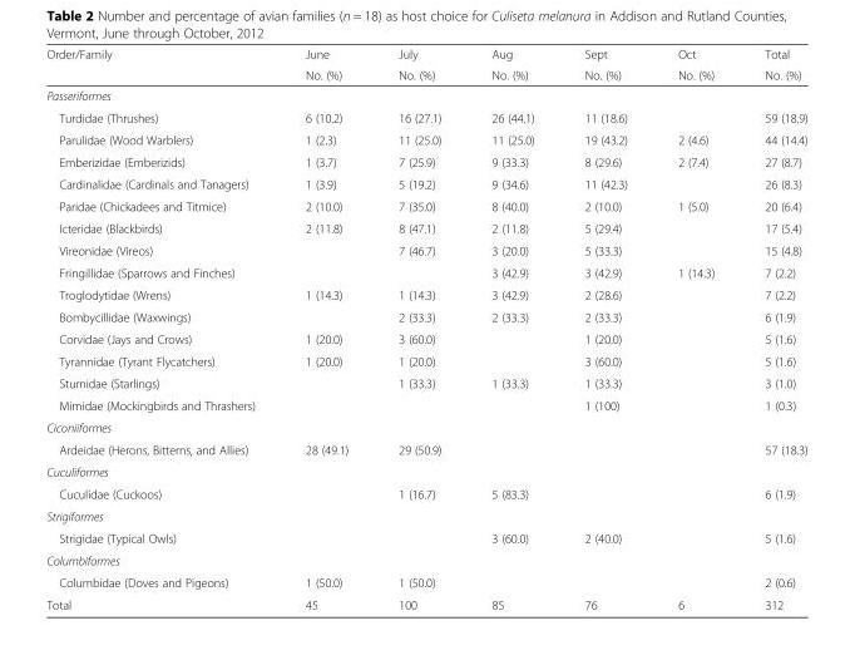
<table><thead><tr><td rowspan="2">Order/Family</td><td rowspan="2">June No. (%)</td><td rowspan="2">July No. (%)</td><td rowspan="2">Aug No. (%)</td><td rowspan="2">Sept No. (%)</td><td rowspan="2">Oct No. (%)</td><td rowspan="2">Total No. (%)</td></tr><tr></tr></thead><tbody><tr><td colspan="7">Passeriformes</td></tr><tr><td>Turdidae (Thrushes)</td><td>6 (10.2)</td><td>16 (27.1)</td><td>26 (44.1)</td><td>11 (18.6)</td><td></td><td>59 (18.9)</td></tr><tr><td>Parulidae (Wood Warblers)</td><td>1 (2.3)</td><td>11 (25.0)</td><td>11 (25.0)</td><td>19 (43.2)</td><td>2 (4.6)</td><td>44 (14.4)</td></tr><tr><td>Emberizidae (Emberizids)</td><td>1 (3.7)</td><td>7 (25.9)</td><td>9 (33.3)</td><td>8 (29.6)</td><td>2 (7.4)</td><td>27 (8.7)</td></tr><tr><td>Cardinalidae (Cardinals and Tanagers)</td><td>1 (3.9)</td><td>5 (19.2)</td><td>9 (34.6)</td><td>11 (42.3)</td><td></td><td>26 (8.3)</td></tr><tr><td>Paridae (Chickadees and Titmice)</td><td>2 (10.0)</td><td>7 (35.0)</td><td>8 (40.0)</td><td>2 (10.0)</td><td>1 (5.0)</td><td>20 (6.4)</td></tr><tr><td>Icteridae (Blackbirds)</td><td>2 (11.8)</td><td>8 (47.1)</td><td>2 (11.8)</td><td>5 (29.4)</td><td></td><td>17 (5.4)</td></tr><tr><td>Vireonidae (Vireos)</td><td></td><td>7 (46.7)</td><td>3 (20.0)</td><td>5 (33.3)</td><td></td><td>15 (4.8)</td></tr><tr><td>Fringillidae (Sparrows and Finches)</td><td></td><td></td><td>3 (42.9)</td><td>3 (42.9)</td><td>1 (14.3)</td><td>7 (2.2)</td></tr><tr><td>Troglodytidae (Wrens)</td><td>1 (14.3)</td><td>1 (14.3)</td><td>3 (42.9)</td><td>2 (28.6)</td><td></td><td>7 (2.2)</td></tr><tr><td>Bombycillidae (Waxwings)</td><td></td><td>2 (33.3)</td><td>2 (33.3)</td><td>2 (33.3)</td><td></td><td>6 (1.9)</td></tr><tr><td>Corvidae (Jays and Crows)</td><td>1 (20.0)</td><td>3 (60.0)</td><td></td><td>1 (20.0)</td><td></td><td>5 (1.6)</td></tr><tr><td>Tyrannidae (Tyrant Flycatchers)</td><td>1 (20.0)</td><td>1 (20.0)</td><td></td><td>3 (60.0)</td><td></td><td>5 (1.6)</td></tr><tr><td>Sturnidae (Starlings)</td><td></td><td>1 (33.3)</td><td>1 (33.3)</td><td>1 (33.3)</td><td></td><td>3 (1.0)</td></tr><tr><td>Mimidae (Mockingbirds and Thrashers)</td><td></td><td></td><td></td><td>1 (100)</td><td></td><td>1 (0.3)</td></tr><tr><td colspan="7">Ciconiiformes</td></tr><tr><td>Ardeidae (Herons, Bitterns, and Allies)</td><td>28 (49.1)</td><td>29 (50.9)</td><td></td><td></td><td></td><td>57 (18.3)</td></tr><tr><td colspan="7">Cuculiformes</td></tr><tr><td>Cuculidae (Cuckoos)</td><td></td><td>1 (16.7)</td><td>5 (83.3)</td><td></td><td></td><td>6 (1.9)</td></tr><tr><td colspan="7">Strigiformes</td></tr><tr><td>Strigidae (Typical Owls)</td><td></td><td></td><td>3 (60.0)</td><td>2 (40.0)</td><td></td><td>5 (1.6)</td></tr><tr><td colspan="7">Columbiformes</td></tr><tr><td>Columbidae (Doves and Pigeons)</td><td>1 (50.0)</td><td>1 (50.0)</td><td></td><td></td><td></td><td>2 (0.6)</td></tr><tr><td>Total</td><td>45</td><td>100</td><td>85</td><td>76</td><td>6</td><td>312</td></tr></tbody></table>